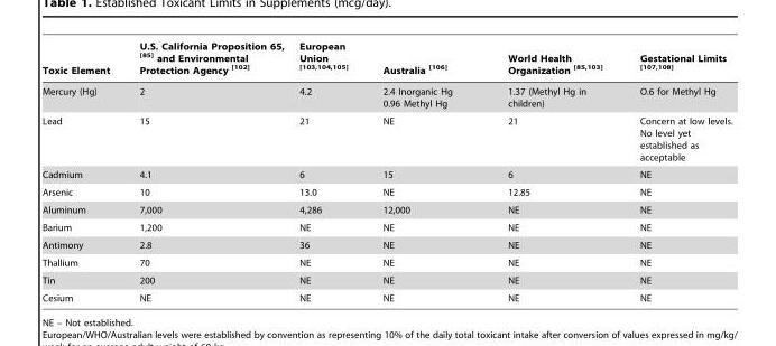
<table><thead><tr><td>Toxic Element</td><td>U.S. California Proposition 65, <sup>[85]</sup> and Environmental Protection Agency <sup>[102]</sup></td><td>European Union [103,104,105]</td><td>Australia <sup>[106]</sup></td><td>World Health Organization [85,103]</td><td>Gestational Limits [107,108]</td></tr></thead><tbody><tr><td>Mercury (Hg)</td><td>2</td><td>4.2</td><td>2.4 Inorganic Hg 0.96 Methyl Hg</td><td>1.37 (Methyl Hg in children)</td><td>O.6 for Methyl Hg</td></tr><tr><td>Lead</td><td>15</td><td>21</td><td>NE</td><td>21</td><td>Concern at low levels. No level yet established as acceptable</td></tr><tr><td>Cadmium</td><td>4.1</td><td>6</td><td>15</td><td>6</td><td>NE</td></tr><tr><td>Arsenic</td><td>10</td><td>13.0</td><td>NE</td><td>12.85</td><td>NE</td></tr><tr><td>Aluminum</td><td>7,000</td><td>4,286</td><td>12,000</td><td>NE</td><td>NE</td></tr><tr><td>Barium</td><td>1,200</td><td>NE</td><td>NE</td><td>NE</td><td>NE</td></tr><tr><td>Antimony</td><td>2.8</td><td>36</td><td>NE</td><td>NE</td><td>NE</td></tr><tr><td>Thallium</td><td>70</td><td>NE</td><td>NE</td><td>NE</td><td>NE</td></tr><tr><td>Tin</td><td>200</td><td>NE</td><td>NE</td><td>NE</td><td>NE</td></tr><tr><td>Cesium</td><td>NE</td><td>NE</td><td>NE</td><td>NE</td><td>NE</td></tr></tbody></table>